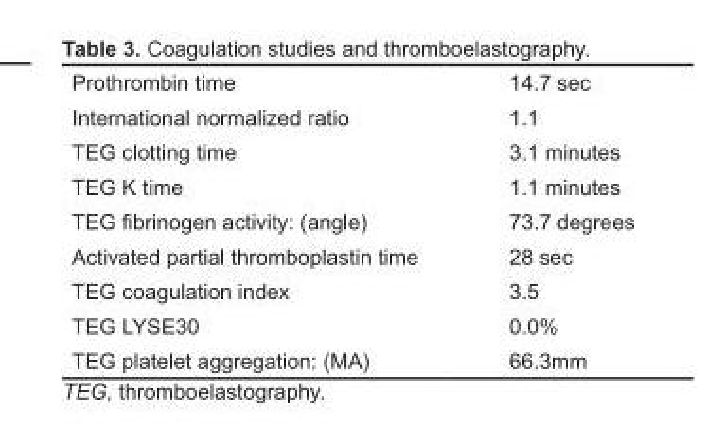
<table><tbody><tr><td>Prothrombin time</td><td>14.7 sec</td></tr><tr><td>International normalized ratio</td><td>1.1</td></tr><tr><td>TEG clotting time</td><td>3.1 minutes</td></tr><tr><td>TEG K time</td><td>1.1 minutes</td></tr><tr><td>TEG fibrinogen activity: (angle)</td><td>73.7 degrees</td></tr><tr><td>Activated partial thromboplastin time</td><td>28 sec</td></tr><tr><td>TEG coagulation index</td><td>3.5</td></tr><tr><td>TEG LYSE30</td><td>0.0%</td></tr><tr><td>TEG platelet aggregation: (MA)</td><td>66.3mm</td></tr></tbody></table>